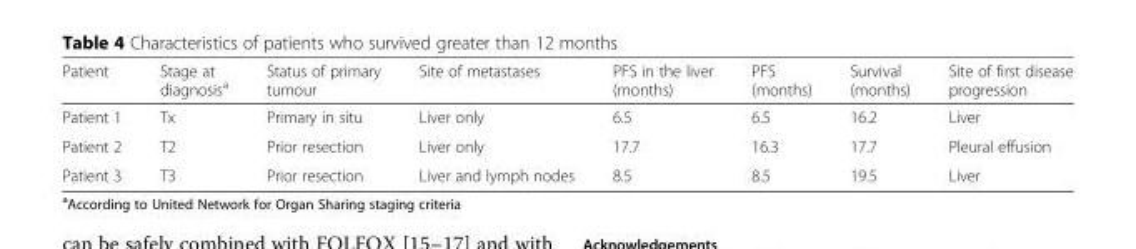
<table><thead><tr><td>Patient</td><td>Stage at diagnosis<sup>a</sup></td><td>Status of primary tumour</td><td>Site of metastases</td><td>PFS in the liver (months)</td><td>PFS (months)</td><td>Survival (months)</td><td>Site of first disease progression</td></tr></thead><tbody><tr><td>Patient 1</td><td>Tx</td><td>Primary in situ</td><td>Liver only</td><td>6.5</td><td>6.5</td><td>16.2</td><td>Liver</td></tr><tr><td>Patient 2</td><td>T2</td><td>Prior resection</td><td>Liver only</td><td>17.7</td><td>16.3</td><td>17.7</td><td>Pleural effusion</td></tr><tr><td>Patient 3</td><td>T3</td><td>Prior resection</td><td>Liver and lymph nodes</td><td>8.5</td><td>8.5</td><td>19.5</td><td>Liver</td></tr></tbody></table>